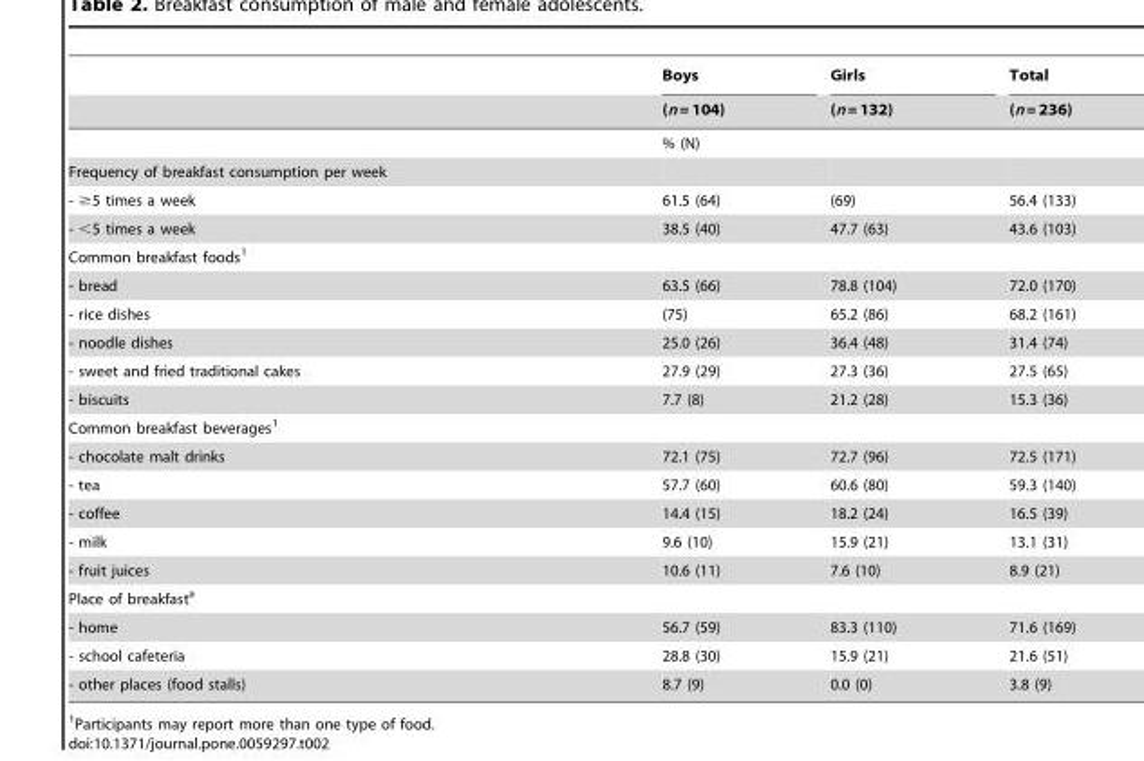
<table><thead><tr><td rowspan="2"></td><td rowspan="2">Boys (n = 104)</td><td rowspan="2">Girls (n = 132)</td><td rowspan="2">Total (n = 236)</td></tr><tr></tr></thead><tbody><tr><td></td><td colspan="3">% (N)</td></tr><tr><td colspan="4">Frequency of breakfast consumption per week</td></tr><tr><td>- ≥5 times a week</td><td>61.5 (64)</td><td>(69)</td><td>56.4 (133)</td></tr><tr><td>- &lt;5 times a week</td><td>38.5 (40)</td><td>47.7 (63)</td><td>43.6 (103)</td></tr><tr><td colspan="4">Common breakfast foods<sup>1</sup></td></tr><tr><td>- bread</td><td>63.5 (66)</td><td>78.8 (104)</td><td>72.0 (170)</td></tr><tr><td>- rice dishes</td><td>(75)</td><td>65.2 (86)</td><td>68.2 (161)</td></tr><tr><td>- noodle dishes</td><td>25.0 (26)</td><td>36.4 (48)</td><td>31.4 (74)</td></tr><tr><td>- sweet and fried traditional cakes</td><td>27.9 (29)</td><td>27.3 (36)</td><td>27.5 (65)</td></tr><tr><td>- biscuits</td><td>7.7 (8)</td><td>21.2 (28)</td><td>15.3 (36)</td></tr><tr><td colspan="4">Common breakfast beverages<sup>1</sup></td></tr><tr><td>- chocolate malt drinks</td><td>72.1 (75)</td><td>72.7 (96)</td><td>72.5 (171)</td></tr><tr><td>- tea</td><td>57.7 (60)</td><td>60.6 (80)</td><td>59.3 (140)</td></tr><tr><td>- coffee</td><td>14.4 (15)</td><td>18.2 (24)</td><td>16.5 (39)</td></tr><tr><td>- milk</td><td>9.6 (10)</td><td>15.9 (21)</td><td>13.1 (31)</td></tr><tr><td>- fruit juices</td><td>10.6 (11)</td><td>7.6 (10)</td><td>8.9 (21)</td></tr><tr><td colspan="4">Place of breakfast<sup>a</sup></td></tr><tr><td>- home</td><td>56.7 (59)</td><td>83.3 (110)</td><td>71.6 (169)</td></tr><tr><td>- school cafeteria</td><td>28.8 (30)</td><td>15.9 (21)</td><td>21.6 (51)</td></tr><tr><td>- other places (food stalls)</td><td>8.7 (9)</td><td>0.0 (0)</td><td>3.8 (9)</td></tr></tbody></table>